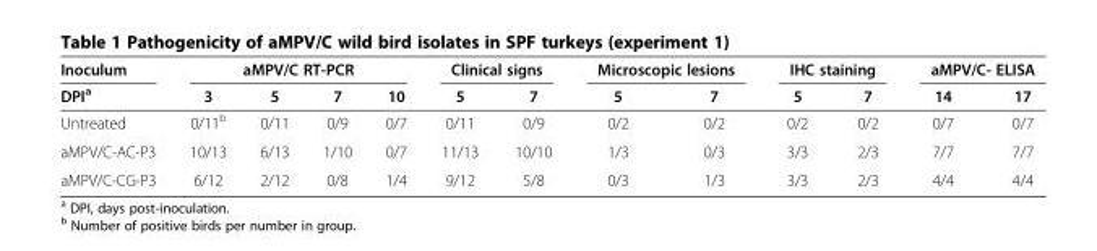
<table><thead><tr><td rowspan="2">Inoculum DPI<sup>a</sup></td><td colspan="4">aMPV/C RT-PCR</td><td colspan="2">Clinical signs</td><td colspan="2">Microscopic lesions</td><td colspan="2">IHC staining</td><td colspan="2">aMPV/C- ELISA</td></tr><tr><td>3</td><td>5</td><td>7</td><td>10</td><td>5</td><td>7</td><td>5</td><td>7</td><td>5</td><td>7</td><td>14</td><td>17</td></tr></thead><tbody><tr><td>Untreated</td><td>0/11<sup>b</sup></td><td>0/11</td><td>0/9</td><td>0/7</td><td>0/11</td><td>0/9</td><td>0/2</td><td>0/2</td><td>0/2</td><td>0/2</td><td>0/7</td><td>0/7</td></tr><tr><td>aMPV/C-AC-P3</td><td>10/13</td><td>6/13</td><td>1/10</td><td>0/7</td><td>11/13</td><td>10/10</td><td>1/3</td><td>0/3</td><td>3/3</td><td>2/3</td><td>7/7</td><td>7/7</td></tr><tr><td>aMPV/C-CG-P3</td><td>6/12</td><td>2/12</td><td>0/8</td><td>1/4</td><td>9/12</td><td>5/8</td><td>0/3</td><td>1/3</td><td>3/3</td><td>2/3</td><td>4/4</td><td>4/4</td></tr></tbody></table>